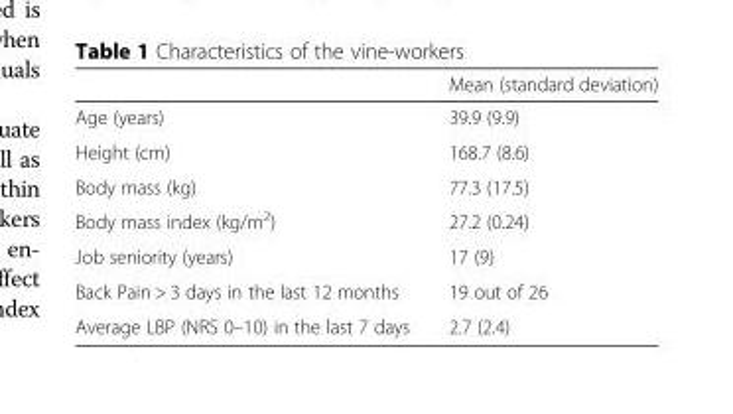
<table><thead><tr><td></td><td>Mean (standard deviation)</td></tr></thead><tbody><tr><td>Age (years)</td><td>39.9 (9.9)</td></tr><tr><td>Height (cm)</td><td>168.7 (8.6)</td></tr><tr><td>Body mass (kg)</td><td>77.3 (17.5)</td></tr><tr><td>Body mass index (kg/m<sup>2</sup>)</td><td>27.2 (0.24)</td></tr><tr><td>Job seniority (years)</td><td>17 (9)</td></tr><tr><td>Back Pain &gt; 3 days in the last 12 months</td><td>19 out of 26</td></tr><tr><td>Average LBP (NRS 0–10) in the last 7 days</td><td>2.7 (2.4)</td></tr></tbody></table>